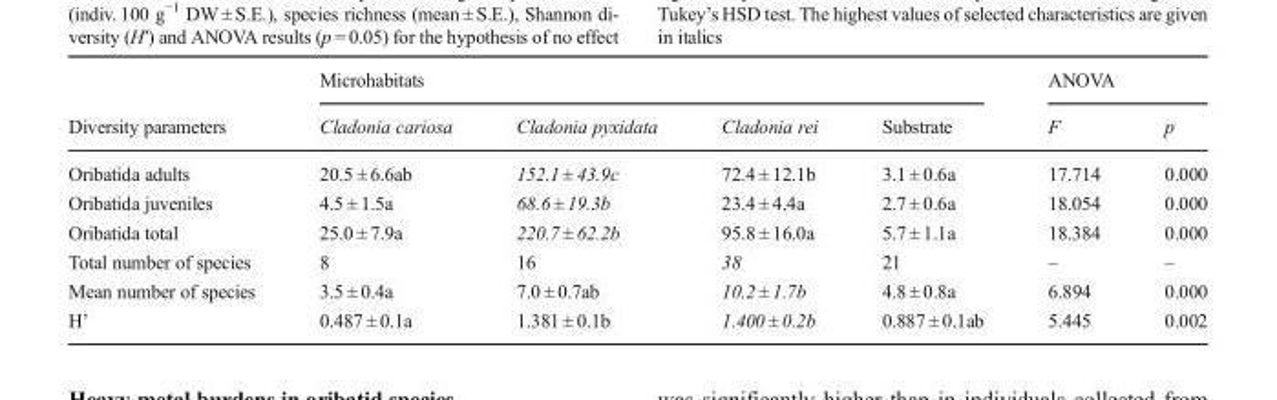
<table><thead><tr><td rowspan="2">Diversity parameters</td><td colspan="4">Microhabitats</td><td colspan="2">ANOVA</td></tr><tr><td>Cladonia cariosa</td><td>Cladonia pyxidata</td><td>Cladonia rei</td><td>Substrate</td><td>F</td><td>p</td></tr></thead><tbody><tr><td>Oribatida adults</td><td>20.5 ± 6.6ab</td><td>152.1 ± 43.9c</td><td>72.4 ± 12.1b</td><td>3.1 ± 0.6a</td><td>17.714</td><td>0.000</td></tr><tr><td>Oribatida juveniles</td><td>4.5 ± 1.5a</td><td>68.6 ± 19.3b</td><td>23.4 ± 4.4a</td><td>2.7 ± 0.6a</td><td>18.054</td><td>0.000</td></tr><tr><td>Oribatida total</td><td>25.0 ± 7.9a</td><td>220.7 ± 62.2b</td><td>95.8 ± 16.0a</td><td>5.7 ± 1.1a</td><td>18.384</td><td>0.000</td></tr><tr><td>Total number of species</td><td>8</td><td>16</td><td>38</td><td>21</td><td>–</td><td>–</td></tr><tr><td>Mean number of species</td><td>3.5 ± 0.4a</td><td>7.0 ± 0.7ab</td><td>10.2 ± 1.7b</td><td>4.8 ± 0.8a</td><td>6.894</td><td>0.000</td></tr><tr><td>H’</td><td>0.487 ± 0.1a</td><td>1.381 ± 0.1b</td><td>1.400 ± 0.2b</td><td>0.887 ± 0.1ab</td><td>5.445</td><td>0.002</td></tr></tbody></table>